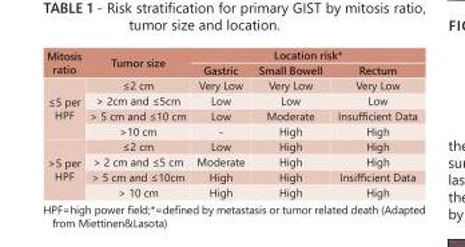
<table><thead><tr><td rowspan="2">Mitosis ratio</td><td rowspan="2">Tumor size</td><td colspan="3">Location risk*</td></tr><tr><td>Gastric</td><td>Small Bowell</td><td>Rectum</td></tr></thead><tbody><tr><td rowspan="4">≤5 per HPF</td><td>≤2 cm</td><td>Very Low</td><td>Very Low</td><td>Very Low</td></tr><tr><td>&gt; 2cm and ≤5cm</td><td>Low</td><td>Low</td><td>Low</td></tr><tr><td>&gt; 5 cm and ≤10 cm</td><td>Low</td><td>Moderate</td><td>Insufficient Data</td></tr><tr><td>&gt;10 cm</td><td>-</td><td>High</td><td>High</td></tr><tr><td rowspan="4">&gt;5 per HPF</td><td>≤2 cm</td><td>Low</td><td>High</td><td>High</td></tr><tr><td>&gt; 2 cm and ≤5 cm</td><td>Moderate</td><td>High</td><td>High</td></tr><tr><td>&gt; 5 cm and ≤10cm</td><td>High</td><td>High</td><td>Insifficient Data</td></tr><tr><td>&gt; 10 cm</td><td>High</td><td>High</td><td>High</td></tr></tbody></table>